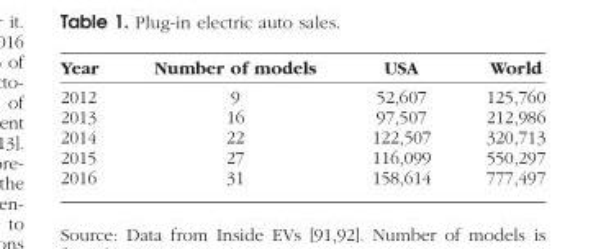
<table><thead><tr><td>Year</td><td>Number of models</td><td>USA</td><td>World</td></tr></thead><tbody><tr><td>2012</td><td>9</td><td>52,607</td><td>125,760</td></tr><tr><td>2013</td><td>16</td><td>97,507</td><td>212,986</td></tr><tr><td>2014</td><td>22</td><td>122,507</td><td>320,713</td></tr><tr><td>2015</td><td>27</td><td>116,099</td><td>550,297</td></tr><tr><td>2016</td><td>31</td><td>158,614</td><td>777,497</td></tr></tbody></table>